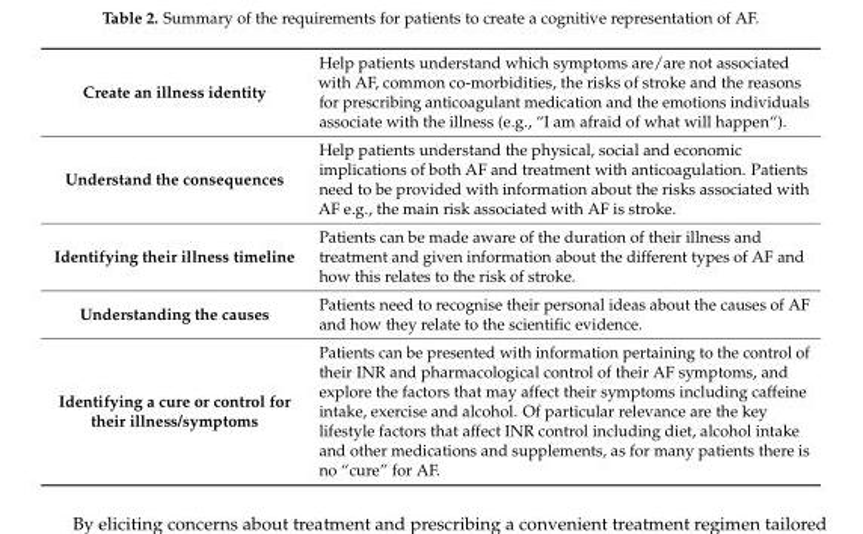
<table><tbody><tr><td>Create an illness identity</td><td>Help patients understand which symptoms are/are not associated with AF, common co-morbidities, the risks of stroke and the reasons for prescribing anticoagulant medication and the emotions individuals associate with the illness (e.g., “I am afraid of what will happen“).</td></tr><tr><td>Understand the consequences</td><td>Help patients understand the physical, social and economic implications of both AF and treatment with anticoagulation. Patients need to be provided with information about the risks associated with AF e.g., the main risk associated with AF is stroke.</td></tr><tr><td>Identifying their illness timeline</td><td>Patients can be made aware of the duration of their illness and treatment and given information about the different types of AF and how this relates to the risk of stroke.</td></tr><tr><td>Understanding the causes</td><td>Patients need to recognise their personal ideas about the causes of AF and how they relate to the scientific evidence.</td></tr><tr><td>Identifying a cure or control for their illness/symptoms</td><td>Patients can be presented with information pertaining to the control of their INR and pharmacological control of their AF symptoms, and explore the factors that may affect their symptoms including caffeine intake, exercise and alcohol. Of particular relevance are the key lifestyle factors that affect INR control including diet, alcohol intake and other medications and supplements, as for many patients there is no “cure” for AF.</td></tr></tbody></table>